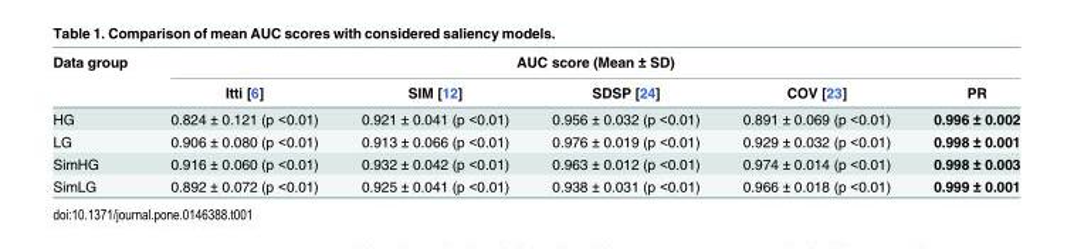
<table><thead><tr><td rowspan="2">Data group</td><td colspan="5">AUC score (Mean ± SD)</td></tr><tr><td>Itti [6]</td><td>SIM [12]</td><td>SDSP [24]</td><td>COV [23]</td><td>PR</td></tr></thead><tbody><tr><td>HG</td><td>0.824 ± 0.121 (p &lt;0.01)</td><td>0.921 ± 0.041 (p &lt;0.01)</td><td>0.956 ± 0.032 (p &lt;0.01)</td><td>0.891 ± 0.069 (p &lt;0.01)</td><td>0.996 ± 0.002</td></tr><tr><td>LG</td><td>0.906 ± 0.080 (p &lt;0.01)</td><td>0.913 ± 0.066 (p &lt;0.01)</td><td>0.976 ± 0.019 (p &lt;0.01)</td><td>0.929 ± 0.032 (p &lt;0.01)</td><td>0.998 ± 0.001</td></tr><tr><td>SimHG</td><td>0.916 ± 0.060 (p &lt;0.01)</td><td>0.932 ± 0.042 (p &lt;0.01)</td><td>0.963 ± 0.012 (p &lt;0.01)</td><td>0.974 ± 0.014 (p &lt;0.01)</td><td>0.998 ± 0.003</td></tr><tr><td>SimLG</td><td>0.892 ± 0.072 (p &lt;0.01)</td><td>0.925 ± 0.041 (p &lt;0.01)</td><td>0.938 ± 0.031 (p &lt;0.01)</td><td>0.966 ± 0.018 (p &lt;0.01)</td><td>0.999 ± 0.001</td></tr></tbody></table>